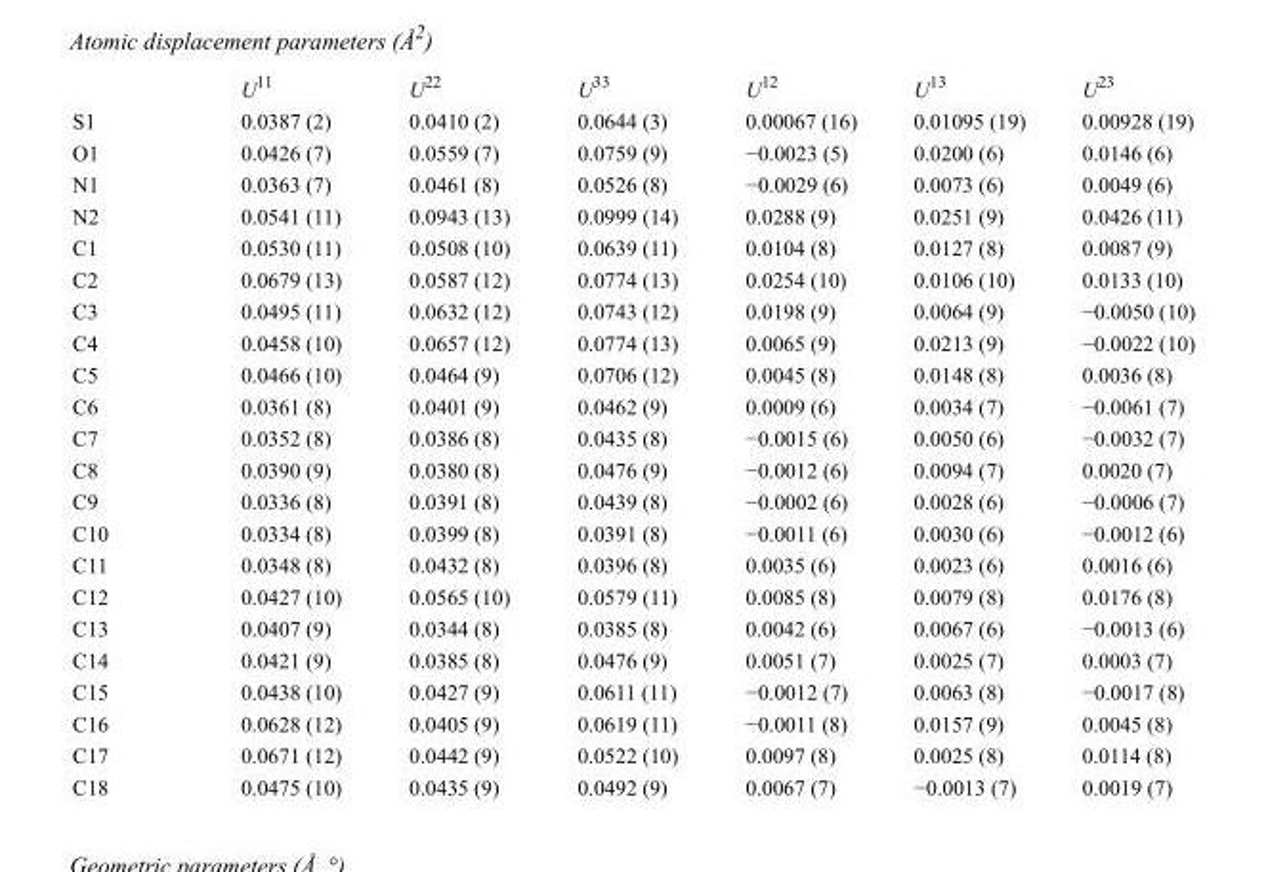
<table><thead><tr><td></td><td>U<sup>11</sup></td><td>U<sup>22</sup></td><td>U<sup>33</sup></td><td>U<sup>12</sup></td><td>U<sup>13</sup></td><td>U<sup>23</sup></td></tr></thead><tbody><tr><td>S1</td><td>0.0387 (2)</td><td>0.0410 (2)</td><td>0.0644 (3)</td><td>0.00067 (16)</td><td>0.01095 (19)</td><td>0.00928 (19)</td></tr><tr><td>O1</td><td>0.0426 (7)</td><td>0.0559 (7)</td><td>0.0759 (9)</td><td>−0.0023 (5)</td><td>0.0200 (6)</td><td>0.0146 (6)</td></tr><tr><td>N1</td><td>0.0363 (7)</td><td>0.0461 (8)</td><td>0.0526 (8)</td><td>−0.0029 (6)</td><td>0.0073 (6)</td><td>0.0049 (6)</td></tr><tr><td>N2</td><td>0.0541 (11)</td><td>0.0943 (13)</td><td>0.0999 (14)</td><td>0.0288 (9)</td><td>0.0251 (9)</td><td>0.0426 (11)</td></tr><tr><td>C1</td><td>0.0530 (11)</td><td>0.0508 (10)</td><td>0.0639 (11)</td><td>0.0104 (8)</td><td>0.0127 (8)</td><td>0.0087 (9)</td></tr><tr><td>C2</td><td>0.0679 (13)</td><td>0.0587 (12)</td><td>0.0774 (13)</td><td>0.0254 (10)</td><td>0.0106 (10)</td><td>0.0133 (10)</td></tr><tr><td>C3</td><td>0.0495 (11)</td><td>0.0632 (12)</td><td>0.0743 (12)</td><td>0.0198 (9)</td><td>0.0064 (9)</td><td>−0.0050 (10)</td></tr><tr><td>C4</td><td>0.0458 (10)</td><td>0.0657 (12)</td><td>0.0774 (13)</td><td>0.0065 (9)</td><td>0.0213 (9)</td><td>−0.0022 (10)</td></tr><tr><td>C5</td><td>0.0466 (10)</td><td>0.0464 (9)</td><td>0.0706 (12)</td><td>0.0045 (8)</td><td>0.0148 (8)</td><td>0.0036 (8)</td></tr><tr><td>C6</td><td>0.0361 (8)</td><td>0.0401 (9)</td><td>0.0462 (9)</td><td>0.0009 (6)</td><td>0.0034 (7)</td><td>−0.0061 (7)</td></tr><tr><td>C7</td><td>0.0352 (8)</td><td>0.0386 (8)</td><td>0.0435 (8)</td><td>−0.0015 (6)</td><td>0.0050 (6)</td><td>−0.0032 (7)</td></tr><tr><td>C8</td><td>0.0390 (9)</td><td>0.0380 (8)</td><td>0.0476 (9)</td><td>−0.0012 (6)</td><td>0.0094 (7)</td><td>0.0020 (7)</td></tr><tr><td>C9</td><td>0.0336 (8)</td><td>0.0391 (8)</td><td>0.0439 (8)</td><td>−0.0002 (6)</td><td>0.0028 (6)</td><td>−0.0006 (7)</td></tr><tr><td>C10</td><td>0.0334 (8)</td><td>0.0399 (8)</td><td>0.0391 (8)</td><td>−0.0011 (6)</td><td>0.0030 (6)</td><td>−0.0012 (6)</td></tr><tr><td>C11</td><td>0.0348 (8)</td><td>0.0432 (8)</td><td>0.0396 (8)</td><td>0.0035 (6)</td><td>0.0023 (6)</td><td>0.0016 (6)</td></tr><tr><td>C12</td><td>0.0427 (10)</td><td>0.0565 (10)</td><td>0.0579 (11)</td><td>0.0085 (8)</td><td>0.0079 (8)</td><td>0.0176 (8)</td></tr><tr><td>C13</td><td>0.0407 (9)</td><td>0.0344 (8)</td><td>0.0385 (8)</td><td>0.0042 (6)</td><td>0.0067 (6)</td><td>−0.0013 (6)</td></tr><tr><td>C14</td><td>0.0421 (9)</td><td>0.0385 (8)</td><td>0.0476 (9)</td><td>0.0051 (7)</td><td>0.0025 (7)</td><td>0.0003 (7)</td></tr><tr><td>C15</td><td>0.0438 (10)</td><td>0.0427 (9)</td><td>0.0611 (11)</td><td>−0.0012 (7)</td><td>0.0063 (8)</td><td>−0.0017 (8)</td></tr><tr><td>C16</td><td>0.0628 (12)</td><td>0.0405 (9)</td><td>0.0619 (11)</td><td>−0.0011 (8)</td><td>0.0157 (9)</td><td>0.0045 (8)</td></tr><tr><td>C17</td><td>0.0671 (12)</td><td>0.0442 (9)</td><td>0.0522 (10)</td><td>0.0097 (8)</td><td>0.0025 (8)</td><td>0.0114 (8)</td></tr><tr><td>C18</td><td>0.0475 (10)</td><td>0.0435 (9)</td><td>0.0492 (9)</td><td>0.0067 (7)</td><td>−0.0013 (7)</td><td>0.0019 (7)</td></tr></tbody></table>